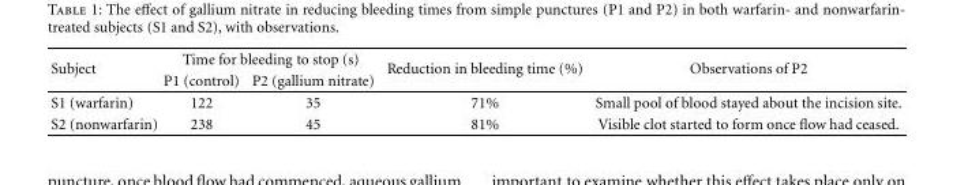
<table><thead><tr><td rowspan="2">Subject</td><td colspan="2">Time for bleeding to stop (s)</td><td rowspan="2">Reduction in bleeding time (%)</td><td rowspan="2">Observations of P2</td></tr><tr><td>P1 (control)</td><td>P2 (gallium nitrate)</td></tr></thead><tbody><tr><td>S1 (warfarin)</td><td>122</td><td>35</td><td>71%</td><td>Small pool of blood stayed about the incision site.</td></tr><tr><td>S2 (nonwarfarin)</td><td>238</td><td>45</td><td>81%</td><td>Visible clot started to form once flow had ceased.</td></tr></tbody></table>